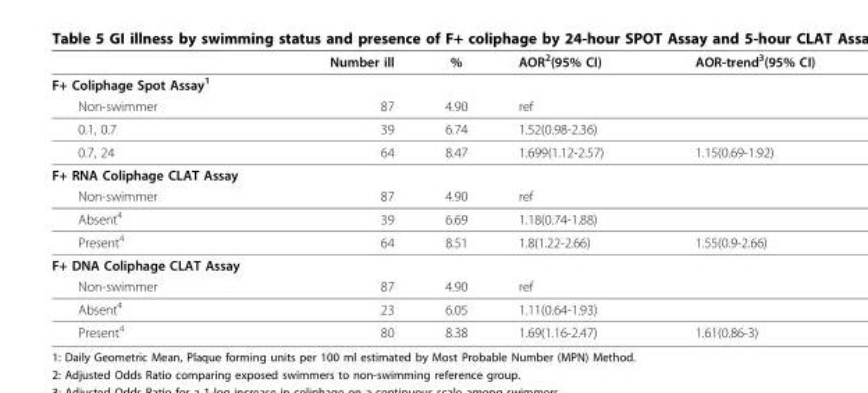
<table><thead><tr><td></td><td>Number ill</td><td>%</td><td>AOR<sup>2</sup>(95% CI)</td><td>AOR-trend<sup>3</sup>(95% CI)</td></tr></thead><tbody><tr><td colspan="5">F+ Coliphage Spot Assay<sup>1</sup></td></tr><tr><td>Non-swimmer</td><td>87</td><td>4.90</td><td>ref</td><td></td></tr><tr><td>0.1, 0.7</td><td>39</td><td>6.74</td><td>1.52(0.98-2.36)</td><td></td></tr><tr><td>0.7, 24</td><td>64</td><td>8.47</td><td>1.699(1.12-2.57)</td><td>1.15(0.69-1.92)</td></tr><tr><td colspan="5">F+ RNA Coliphage CLAT Assay</td></tr><tr><td>Non-swimmer</td><td>87</td><td>4.90</td><td>ref</td><td></td></tr><tr><td>Absent<sup>4</sup></td><td>39</td><td>6.69</td><td>1.18(0.74-1.88)</td><td></td></tr><tr><td>Present<sup>4</sup></td><td>64</td><td>8.51</td><td>1.8(1.22-2.66)</td><td>1.55(0.9-2.66)</td></tr><tr><td colspan="5">F+ DNA Coliphage CLAT Assay</td></tr><tr><td>Non-swimmer</td><td>87</td><td>4.90</td><td>ref</td><td></td></tr><tr><td>Absent<sup>4</sup></td><td>23</td><td>6.05</td><td>1.11(0.64-1.93)</td><td></td></tr><tr><td>Present<sup>4</sup></td><td>80</td><td>8.38</td><td>1.69(1.16-2.47)</td><td>1.61(0.86-3)</td></tr></tbody></table>